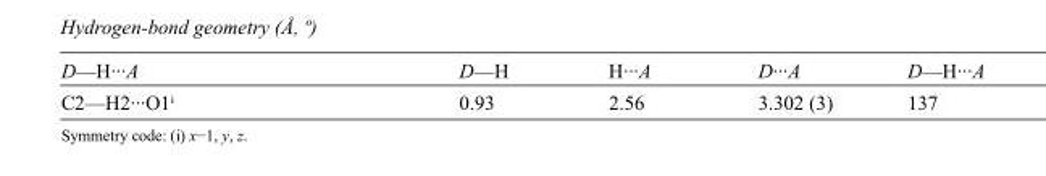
<table><tbody><tr><td>D—H···A</td><td>D—H</td><td>H···A</td><td>D···A</td><td>D—H···A</td></tr><tr><td>C2—H2···O1<sup>i</sup></td><td>0.93</td><td>2.56</td><td>3.302 (3)</td><td>137</td></tr></tbody></table>